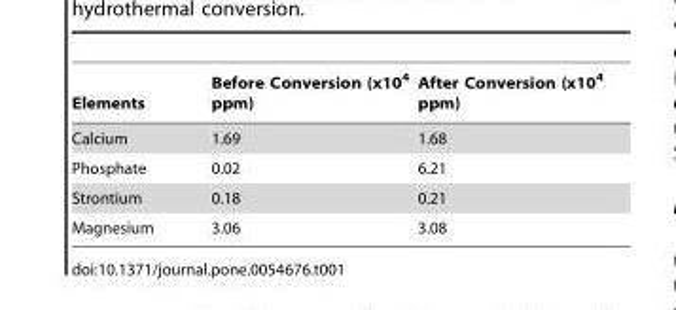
<table><thead><tr><td>Elements</td><td>Before Conversion (x10<sup>4</sup> ppm)</td><td>After Conversion (x10<sup>4</sup> ppm)</td></tr></thead><tbody><tr><td>Calcium</td><td>1.69</td><td>1.68</td></tr><tr><td>Phosphate</td><td>0.02</td><td>6.21</td></tr><tr><td>Strontium</td><td>0.18</td><td>0.21</td></tr><tr><td>Magnesium</td><td>3.06</td><td>3.08</td></tr></tbody></table>